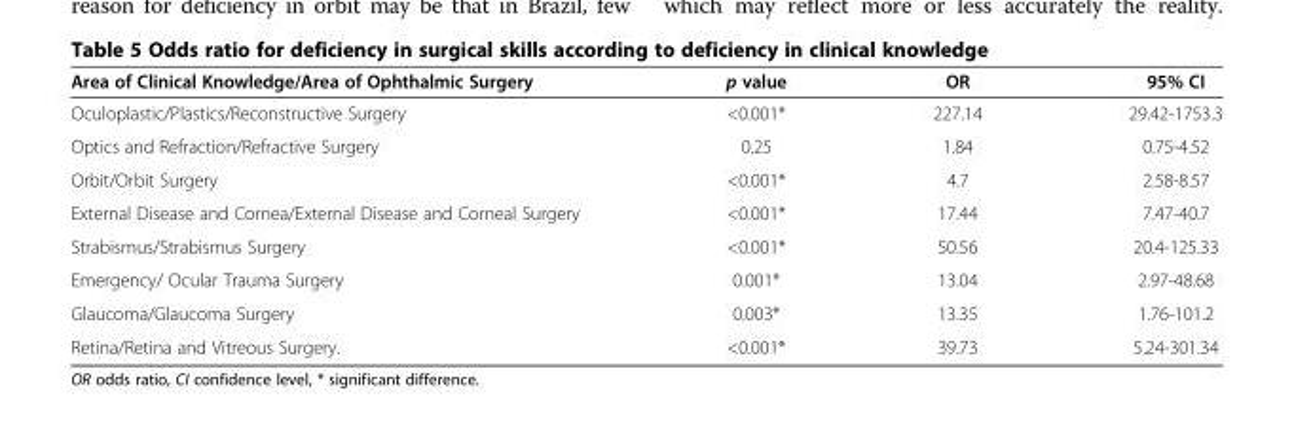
<table><thead><tr><td>Area of Clinical Knowledge/Area of Ophthalmic Surgery</td><td>p value</td><td>OR</td><td>95% CI</td></tr></thead><tbody><tr><td>Oculoplastic/Plastics/Reconstructive Surgery</td><td>&lt;0.001*</td><td>227.14</td><td>29.42-1753.3</td></tr><tr><td>Optics and Refraction/Refractive Surgery</td><td>0.25</td><td>1.84</td><td>0.75-4.52</td></tr><tr><td>Orbit/Orbit Surgery</td><td>&lt;0.001*</td><td>4.7</td><td>2.58-8.57</td></tr><tr><td>External Disease and Cornea/External Disease and Corneal Surgery</td><td>&lt;0.001*</td><td>17.44</td><td>7.47-40.7</td></tr><tr><td>Strabismus/Strabismus Surgery</td><td>&lt;0.001*</td><td>50.56</td><td>20.4-125.33</td></tr><tr><td>Emergency/ Ocular Trauma Surgery</td><td>0.001*</td><td>13.04</td><td>2.97-48.68</td></tr><tr><td>Glaucoma/Glaucoma Surgery</td><td>0.003*</td><td>13.35</td><td>1.76-101.2</td></tr><tr><td>Retina/Retina and Vitreous Surgery.</td><td>&lt;0.001*</td><td>39.73</td><td>5.24-301.34</td></tr></tbody></table>